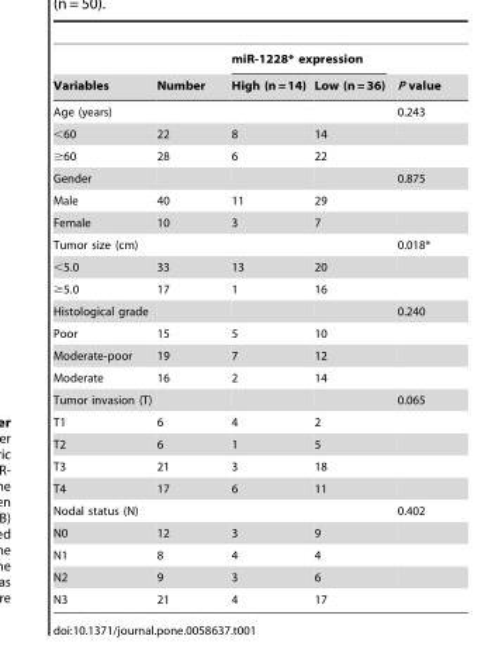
<table><thead><tr><td rowspan="2">Variables</td><td rowspan="2">Number</td><td colspan="2">miR-1228* expression</td><td rowspan="2">P value</td></tr><tr><td>High (n = 14)</td><td>Low (n = 36)</td></tr></thead><tbody><tr><td>Age (years)</td><td></td><td></td><td></td><td>0.243</td></tr><tr><td>&lt;60</td><td>22</td><td>8</td><td>14</td><td></td></tr><tr><td>≥60</td><td>28</td><td>6</td><td>22</td><td></td></tr><tr><td>Gender</td><td></td><td></td><td></td><td>0.875</td></tr><tr><td>Male</td><td>40</td><td>11</td><td>29</td><td></td></tr><tr><td>Female</td><td>10</td><td>3</td><td>7</td><td></td></tr><tr><td>Tumor size (cm)</td><td></td><td></td><td></td><td>0.018*</td></tr><tr><td>&lt;5.0</td><td>33</td><td>13</td><td>20</td><td></td></tr><tr><td>≥5.0</td><td>17</td><td>1</td><td>16</td><td></td></tr><tr><td>Histological grade</td><td></td><td></td><td></td><td>0.240</td></tr><tr><td>Poor</td><td>15</td><td>5</td><td>10</td><td></td></tr><tr><td>Moderate-poor</td><td>19</td><td>7</td><td>12</td><td></td></tr><tr><td>Moderate</td><td>16</td><td>2</td><td>14</td><td></td></tr><tr><td>Tumor invasion (T)</td><td></td><td></td><td></td><td>0.065</td></tr><tr><td>T1</td><td>6</td><td>4</td><td>2</td><td></td></tr><tr><td>T2</td><td>6</td><td>1</td><td>5</td><td></td></tr><tr><td>T3</td><td>21</td><td>3</td><td>18</td><td></td></tr><tr><td>T4</td><td>17</td><td>6</td><td>11</td><td></td></tr><tr><td>Nodal status (N)</td><td></td><td></td><td></td><td>0.402</td></tr><tr><td>N0</td><td>12</td><td>3</td><td>9</td><td></td></tr><tr><td>N1</td><td>8</td><td>4</td><td>4</td><td></td></tr><tr><td>N2</td><td>9</td><td>3</td><td>6</td><td></td></tr><tr><td>N3</td><td>21</td><td>4</td><td>17</td><td></td></tr></tbody></table>